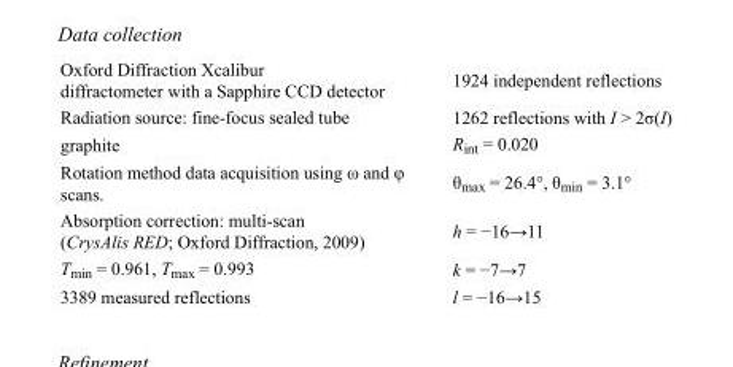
<table><tbody><tr><td>Oxford Diffraction Xcalibur diffractometer with a Sapphire CCD detector</td><td>1924 independent reflections</td></tr><tr><td>Radiation source: fine-focus sealed tube</td><td>1262 reflections with I &gt; 2σ(I)</td></tr><tr><td>graphite</td><td>R<sub>int</sub> = 0.020</td></tr><tr><td>Rotation method data acquisition using ω and φ scans.</td><td>θ<sub>max</sub> = 26.4°, θ<sub>min</sub> = 3.1°</td></tr><tr><td>Absorption correction: multi-scan (CrysAlis RED; Oxford Diffraction, 2009)</td><td>h = −16→11</td></tr><tr><td>T<sub>min</sub> = 0.961, T<sub>max</sub> = 0.993</td><td>k = −7→7</td></tr><tr><td>3389 measured reflections</td><td>l = −16→15</td></tr></tbody></table>